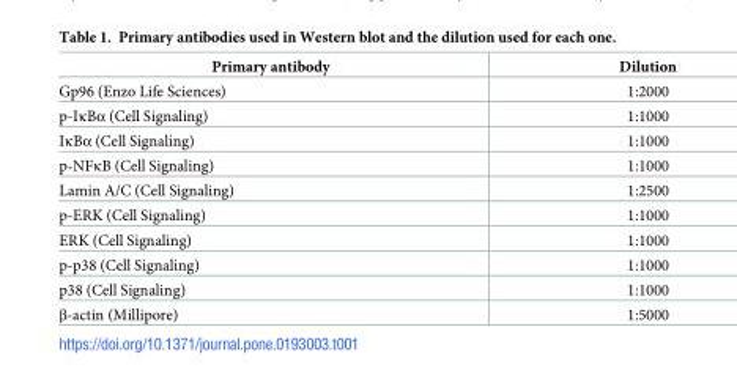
<table><thead><tr><td>Primary antibody</td><td>Dilution</td></tr></thead><tbody><tr><td>Gp96 (Enzo Life Sciences)</td><td>1:2000</td></tr><tr><td>p-IκBα (Cell Signaling)</td><td>1:1000</td></tr><tr><td>IκBα (Cell Signaling)</td><td>1:1000</td></tr><tr><td>p-NFκB (Cell Signaling)</td><td>1:1000</td></tr><tr><td>Lamin A/C (Cell Signaling)</td><td>1:2500</td></tr><tr><td>p-ERK (Cell Signaling)</td><td>1:1000</td></tr><tr><td>ERK (Cell Signaling)</td><td>1:1000</td></tr><tr><td>p-p38 (Cell Signaling)</td><td>1:1000</td></tr><tr><td>p38 (Cell Signaling)</td><td>1:1000</td></tr><tr><td>β-actin (Millipore)</td><td>1:5000</td></tr></tbody></table>